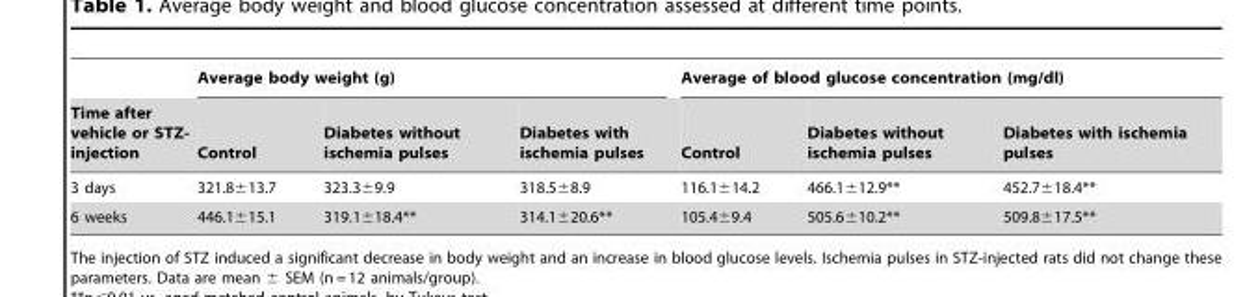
<table><thead><tr><td rowspan="2">Time after vehicle or STZ- injection</td><td colspan="3">Average body weight (g)</td><td colspan="3">Average of blood glucose concentration (mg/dl)</td></tr><tr><td>Control</td><td>Diabetes without ischemia pulses</td><td>Diabetes with ischemia pulses</td><td>Control</td><td>Diabetes without ischemia pulses</td><td>Diabetes with ischemia pulses</td></tr></thead><tbody><tr><td>3 days</td><td>321.8±13.7</td><td>323.3±9.9</td><td>318.5±8.9</td><td>116.1±14.2</td><td>466.1±12.9**</td><td>452.7±18.4**</td></tr><tr><td>6 weeks</td><td>446.1±15.1</td><td>319.1±18.4**</td><td>314.1±20.6**</td><td>105.4±9.4</td><td>505.6±10.2**</td><td>509.8±17.5**</td></tr></tbody></table>